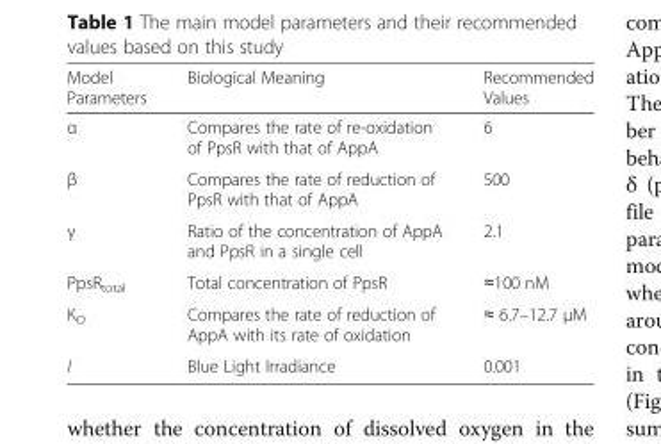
<table><thead><tr><td>Model Parameters</td><td>Biological Meaning</td><td>Recommended Values</td></tr></thead><tbody><tr><td>α</td><td>Compares the rate of re-oxidation of PpsR with that of AppA</td><td>6</td></tr><tr><td>β</td><td>Compares the rate of reduction of PpsR with that of AppA</td><td>500</td></tr><tr><td>γ</td><td>Ratio of the concentration of AppA and PpsR in a single cell</td><td>2.1</td></tr><tr><td>PpsR<sub>total</sub></td><td>Total concentration of PpsR</td><td>≈100 nM</td></tr><tr><td>K<sub>O</sub></td><td>Compares the rate of reduction of AppA with its rate of oxidation</td><td>≈ 6.7–12.7 μM</td></tr><tr><td>I</td><td>Blue Light Irradiance</td><td>0.001</td></tr></tbody></table>